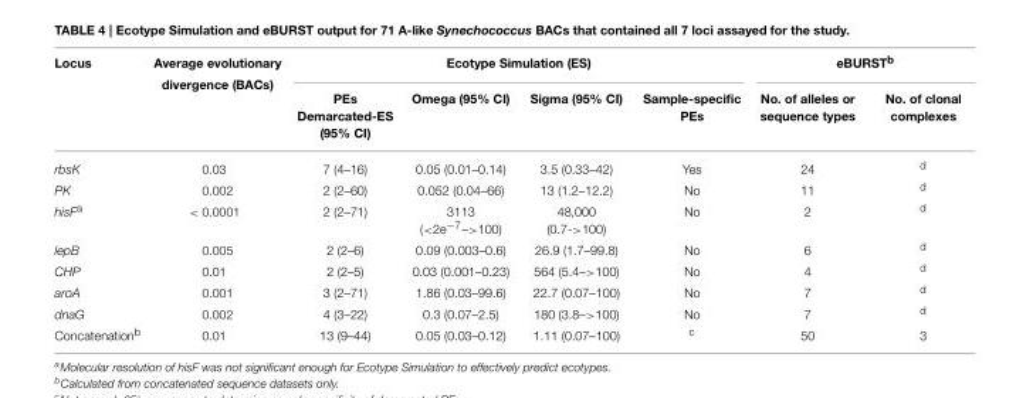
<table><thead><tr><td rowspan="2">Locus</td><td rowspan="2">Average evolutionary divergence (BACs)</td><td colspan="4">Ecotype Simulation (ES)</td><td colspan="2">eBURST<sup>b</sup></td></tr><tr><td>PEs Demarcated-ES (95% CI)</td><td>Omega (95% CI)</td><td>Sigma (95% CI)</td><td>Sample-specific PEs</td><td>No. of alleles or sequence types</td><td>No. of clonal complexes</td></tr></thead><tbody><tr><td>rbsK</td><td>0.03</td><td>7 (4–16)</td><td>0.05 (0.01–0.14)</td><td>3.5 (0.33–42)</td><td>Yes</td><td>24</td><td><sup>d</sup></td></tr><tr><td>PK</td><td>0.002</td><td>2 (2–60)</td><td>0.052 (0.04–66)</td><td>13 (1.2–12.2)</td><td>No</td><td>11</td><td><sup>d</sup></td></tr><tr><td>hisF<sup>a</sup></td><td>&lt; 0.0001</td><td>2 (2–71)</td><td>3113 (&lt;2e<sup>−7</sup>–&gt;100)</td><td>48,000 (0.7-&gt;100)</td><td>No</td><td>2</td><td><sup>d</sup></td></tr><tr><td>lepB</td><td>0.005</td><td>2 (2–6)</td><td>0.09 (0.003–0.6)</td><td>26.9 (1.7–99.8)</td><td>No</td><td>6</td><td><sup>d</sup></td></tr><tr><td>CHP</td><td>0.01</td><td>2 (2–5)</td><td>0.03 (0.001–0.23)</td><td>564 (5.4–&gt;100)</td><td>No</td><td>4</td><td><sup>d</sup></td></tr><tr><td>aroA</td><td>0.001</td><td>3 (2–71)</td><td>1.86 (0.03–99.6)</td><td>22.7 (0.07–100)</td><td>No</td><td>7</td><td><sup>d</sup></td></tr><tr><td>dnaG</td><td>0.002</td><td>4 (3–22)</td><td>0.3 (0.07–2.5)</td><td>180 (3.8–&gt;100)</td><td>No</td><td>7</td><td><sup>d</sup></td></tr><tr><td>Concatenation<sup>b</sup></td><td>0.01</td><td>13 (9–44)</td><td>0.05 (0.03–0.12)</td><td>1.11 (0.07–100)</td><td><sup>c</sup></td><td>50</td><td>3</td></tr></tbody></table>